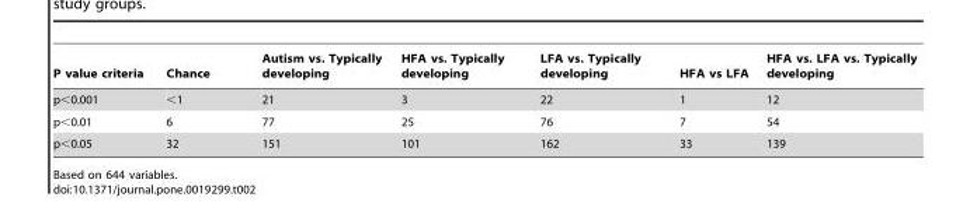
<table><thead><tr><td>P value criteria</td><td>Chance</td><td>Autism vs. Typically developing</td><td>HFA vs. Typically developing</td><td>LFA vs. Typically developing</td><td>HFA vs LFA</td><td>HFA vs. LFA vs. Typically developing</td></tr></thead><tbody><tr><td>p&lt;0.001</td><td>&lt;1</td><td>21</td><td>3</td><td>22</td><td>1</td><td>12</td></tr><tr><td>p&lt;0.01</td><td>6</td><td>77</td><td>25</td><td>76</td><td>7</td><td>54</td></tr><tr><td>p&lt;0.05</td><td>32</td><td>151</td><td>101</td><td>162</td><td>33</td><td>139</td></tr></tbody></table>